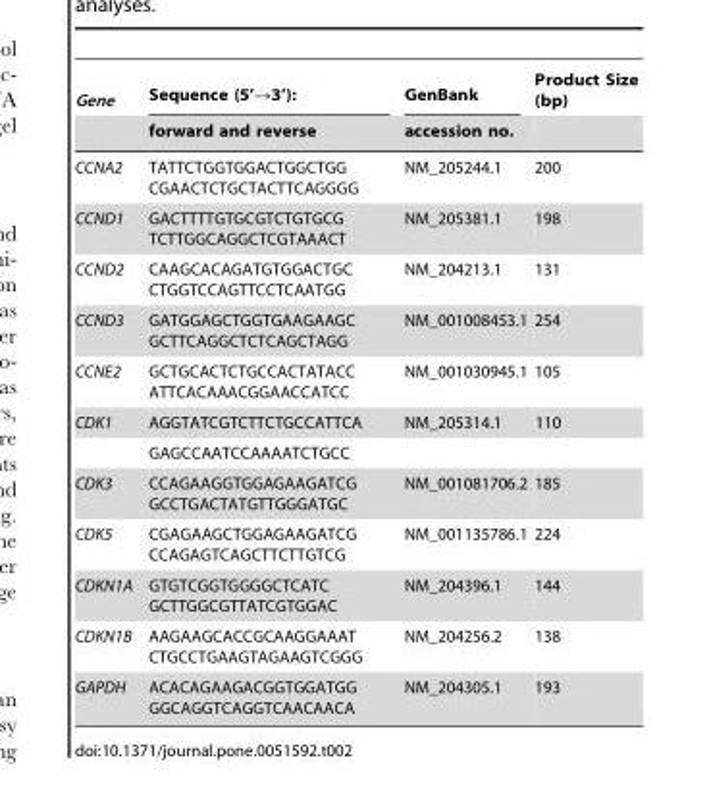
<table><thead><tr><td rowspan="2">Gene</td><td rowspan="2">Sequence (5’→3’): forward and reverse</td><td rowspan="2">GenBank accession no.</td><td rowspan="2">Product Size (bp)</td></tr><tr></tr></thead><tbody><tr><td>CCNA2</td><td>TATTCTGGTGGACTGGCTGG CGAACTCTGCTACTTCAGGGG</td><td>NM_205244.1</td><td>200</td></tr><tr><td>CCND1</td><td>GACTTTTGTGCGTCTGTGCG TCTTGGCAGGCTCGTAAACT</td><td>NM_205381.1</td><td>198</td></tr><tr><td>CCND2</td><td>CAAGCACAGATGTGGACTGC CTGGTCCAGTTCCTCAATGG</td><td>NM_204213.1</td><td>131</td></tr><tr><td>CCND3</td><td>GATGGAGCTGGTGAAGAAGC GCTTCAGGCTCTCAGCTAGG</td><td>NM_001008453.1</td><td>254</td></tr><tr><td>CCNE2</td><td>GCTGCACTCTGCCACTATACC ATTCACAAACGGAACCATCC</td><td>NM_001030945.1</td><td>105</td></tr><tr><td rowspan="2">CDK1</td><td>AGGTATCGTCTTCTGCCATTCA</td><td>NM_205314.1</td><td>110</td></tr><tr><td>GAGCCAATCCAAAATCTGCC</td><td></td><td></td></tr><tr><td>CDK3</td><td>CCAGAAGGTGGAGAAGATCG GCCTGACTATGTTGGGATGC</td><td>NM_001081706.2</td><td>185</td></tr><tr><td>CDK5</td><td>CGAGAAGCTGGAGAAGATCG CCAGAGTCAGCTTCTTGTCG</td><td>NM_001135786.1</td><td>224</td></tr><tr><td>CDKN1A</td><td>GTGTCGGTGGGGCTCATC GCTTGGCGTTATCGTGGAC</td><td>NM_204396.1</td><td>144</td></tr><tr><td>CDKN1B</td><td>AAGAAGCACCGCAAGGAAAT CTGCCTGAAGTAGAAGTCGGG</td><td>NM_204256.2</td><td>138</td></tr><tr><td>GAPDH</td><td>ACACAGAAGACGGTGGATGG GGCAGGTCAGGTCAACAACA</td><td>NM_204305.1</td><td>193</td></tr></tbody></table>